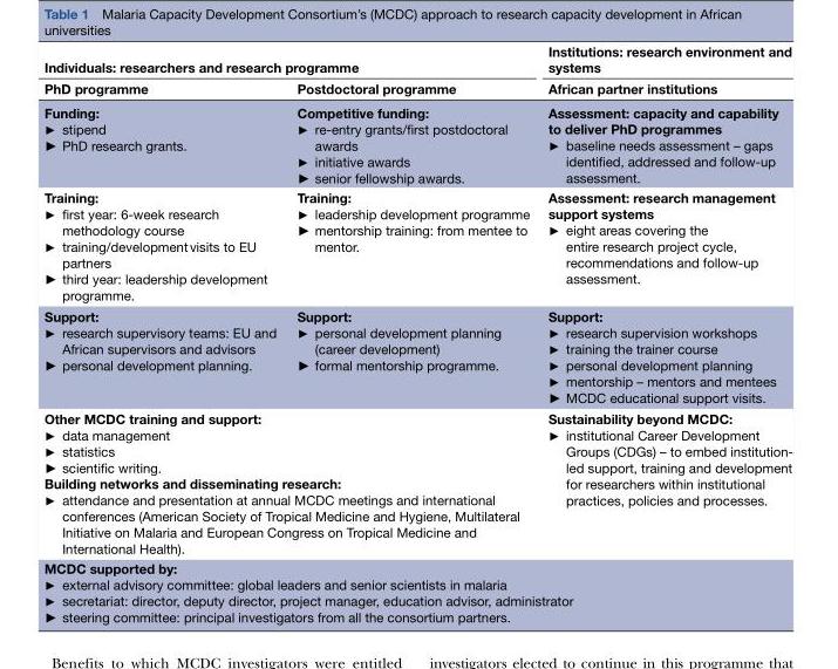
<table><thead><tr><td colspan="2">Individuals: researchers and research programme</td><td rowspan="2">Institutions: research environment and systems African partner institutions</td></tr><tr><td>PhD programme</td><td>Postdoctoral programme</td></tr></thead><tbody><tr><td>Funding: ► stipend ► PhD research grants.</td><td>Competitive funding: ► re-entry grants/first postdoctoral awards ► initiative awards ► senior fellowship awards.</td><td>Assessment: capacity and capability to deliver PhD programmes ► baseline needs assessment – gaps identified, addressed and follow-up assessment.</td></tr><tr><td>Training: ► first year: 6-week research methodology course ► training/development visits to EU partners ► third year: leadership development programme.</td><td>Training: ► leadership development programme ► mentorship training: from mentee to mentor.</td><td>Assessment: research management support systems ► eight areas covering the entire research project cycle, recommendations and follow-up assessment.</td></tr><tr><td>Support: ► research supervisory teams: EU and African supervisors and advisors ► personal development planning.</td><td>Support: ► personal development planning (career development) ► formal mentorship programme.</td><td>Support: ► research supervision workshops ► training the trainer course ► personal development planning ► mentorship – mentors and mentees ► MCDC educational support visits.</td></tr><tr><td colspan="2">Other MCDC training and support: ► data management ► statistics ► scientific writing. Building networks and disseminating research: ► attendance and presentation at annual MCDC meetings and international conferences (American Society of Tropical Medicine and Hygiene, Multilateral Initiative on Malaria and European Congress on Tropical Medicine and International Health).</td><td>Sustainability beyond MCDC: ► institutional Career Development Groups (CDGs) – to embed institution- led support, training and development for researchers within institutional practices, policies and processes.</td></tr><tr><td colspan="3">MCDC supported by: ► external advisory committee: global leaders and senior scientists in malaria ► secretariat: director, deputy director, project manager, education advisor, administrator ► steering committee: principal investigators from all the consortium partners.</td></tr></tbody></table>